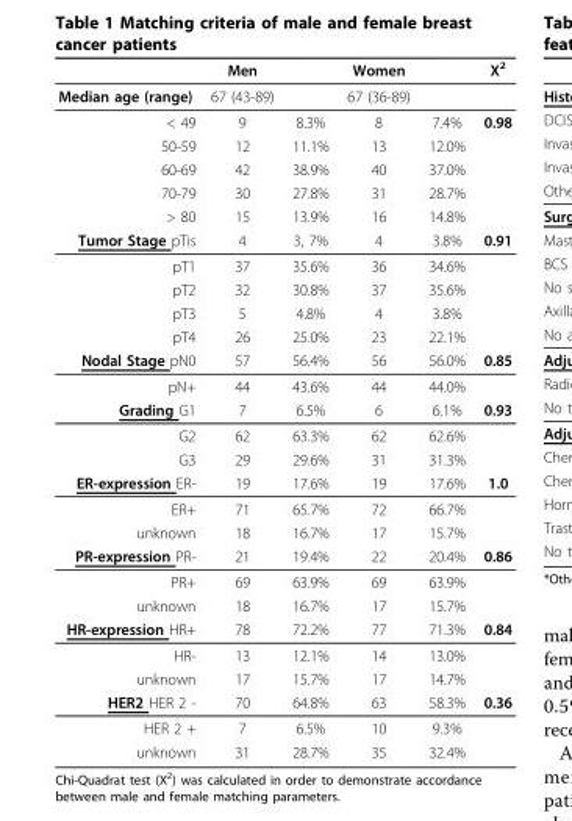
<table><thead><tr><td></td><td>Men</td><td></td><td>Women</td><td></td><td>Χ<sup>2</sup></td></tr></thead><tbody><tr><td>Median age (range)</td><td>67 (43-89)</td><td></td><td>67 (36-89)</td><td></td><td></td></tr><tr><td>&lt; 49</td><td>9</td><td>8.3%</td><td>8</td><td>7.4%</td><td>0.98</td></tr><tr><td>50-59</td><td>12</td><td>11.1%</td><td>13</td><td>12.0%</td><td></td></tr><tr><td>60-69</td><td>42</td><td>38.9%</td><td>40</td><td>37.0%</td><td></td></tr><tr><td>70-79</td><td>30</td><td>27.8%</td><td>31</td><td>28.7%</td><td></td></tr><tr><td>&gt; 80</td><td>15</td><td>13.9%</td><td>16</td><td>14.8%</td><td></td></tr><tr><td>Tumor Stage pTis</td><td>4</td><td>3, 7%</td><td>4</td><td>3.8%</td><td>0.91</td></tr><tr><td>pT1</td><td>37</td><td>35.6%</td><td>36</td><td>34.6%</td><td></td></tr><tr><td>pT2</td><td>32</td><td>30.8%</td><td>37</td><td>35.6%</td><td></td></tr><tr><td>pT3</td><td>5</td><td>4.8%</td><td>4</td><td>3.8%</td><td></td></tr><tr><td>pT4</td><td>26</td><td>25.0%</td><td>23</td><td>22.1%</td><td></td></tr><tr><td>Nodal Stage pN0</td><td>57</td><td>56.4%</td><td>56</td><td>56.0%</td><td>0.85</td></tr><tr><td>pN+</td><td>44</td><td>43.6%</td><td>44</td><td>44.0%</td><td></td></tr><tr><td>Grading G1</td><td>7</td><td>6.5%</td><td>6</td><td>6.1%</td><td>0.93</td></tr><tr><td>G2</td><td>62</td><td>63.3%</td><td>62</td><td>62.6%</td><td></td></tr><tr><td>G3</td><td>29</td><td>29.6%</td><td>31</td><td>31.3%</td><td></td></tr><tr><td>ER-expression ER-</td><td>19</td><td>17.6%</td><td>19</td><td>17.6%</td><td>1.0</td></tr><tr><td>ER+</td><td>71</td><td>65.7%</td><td>72</td><td>66.7%</td><td></td></tr><tr><td>unknown</td><td>18</td><td>16.7%</td><td>17</td><td>15.7%</td><td></td></tr><tr><td>PR-expression PR-</td><td>21</td><td>19.4%</td><td>22</td><td>20.4%</td><td>0.86</td></tr><tr><td>PR+</td><td>69</td><td>63.9%</td><td>69</td><td>63.9%</td><td></td></tr><tr><td>unknown</td><td>18</td><td>16.7%</td><td>17</td><td>15.7%</td><td></td></tr><tr><td>HR-expression HR+</td><td>78</td><td>72.2%</td><td>77</td><td>71.3%</td><td>0.84</td></tr><tr><td>HR-</td><td>13</td><td>12.1%</td><td>14</td><td>13.0%</td><td></td></tr><tr><td>unknown</td><td>17</td><td>15.7%</td><td>17</td><td>14.7%</td><td></td></tr><tr><td>HER2 HER 2 -</td><td>70</td><td>64.8%</td><td>63</td><td>58.3%</td><td>0.36</td></tr><tr><td>HER 2 +</td><td>7</td><td>6.5%</td><td>10</td><td>9.3%</td><td></td></tr><tr><td>unknown</td><td>31</td><td>28.7%</td><td>35</td><td>32.4%</td><td></td></tr></tbody></table>